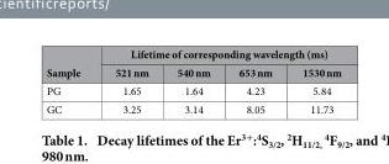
<table><thead><tr><td rowspan="2">Sample</td><td colspan="4">Lifetime of corresponding wavelength (ms)</td></tr><tr><td>521 nm</td><td>540 nm</td><td>653 nm</td><td>1530 nm</td></tr></thead><tbody><tr><td>PG</td><td>1.65</td><td>1.64</td><td>4.23</td><td>5.84</td></tr><tr><td>GC</td><td>3.25</td><td>3.14</td><td>8.05</td><td>11.73</td></tr></tbody></table>